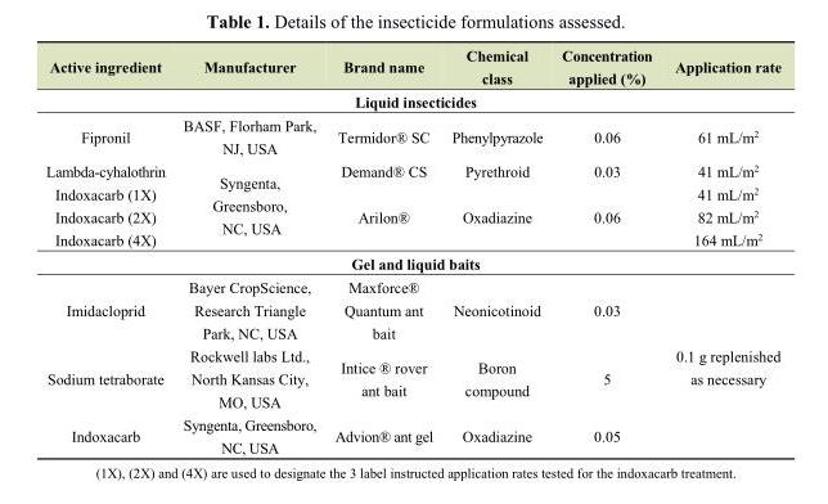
<table><thead><tr><td>Active ingredient</td><td>Manufacturer</td><td>Brand name</td><td>Chemical class</td><td>Concentration applied (%)</td><td>Application rate</td></tr></thead><tbody><tr><td colspan="6">Liquid insecticides</td></tr><tr><td>Fipronil</td><td>BASF, Florham Park, NJ, USA</td><td>Termidor® SC</td><td>Phenylpyrazole</td><td>0.06</td><td>61 mL/m<sup>2</sup></td></tr><tr><td>Lambda-cyhalothrin</td><td rowspan="4">Syngenta, Greensboro, NC, USA</td><td>Demand® CS</td><td>Pyrethroid</td><td>0.03</td><td>41 mL/m<sup>2</sup></td></tr><tr><td>Indoxacarb (1X)</td><td rowspan="3">Arilon®</td><td rowspan="3">Oxadiazine</td><td rowspan="3">0.06</td><td>41 mL/m<sup>2</sup></td></tr><tr><td>Indoxacarb (2X)</td><td>82 mL/m<sup>2</sup></td></tr><tr><td>Indoxacarb (4X)</td><td>164 mL/m<sup>2</sup></td></tr><tr><td colspan="6">Gel and liquid baits</td></tr><tr><td>Imidacloprid</td><td>Bayer CropScience, Research Triangle Park, NC, USA</td><td>Maxforce® Quantum ant bait</td><td>Neonicotinoid</td><td>0.03</td><td rowspan="3">0.1 g replenished as necessary</td></tr><tr><td>Sodium tetraborate</td><td>Rockwell labs Ltd., North Kansas City, MO, USA</td><td>Intice ® rover ant bait</td><td>Boron compound</td><td>5</td></tr><tr><td>Indoxacarb</td><td>Syngenta, Greensboro, NC, USA</td><td>Advion® ant gel</td><td>Oxadiazine</td><td>0.05</td></tr></tbody></table>